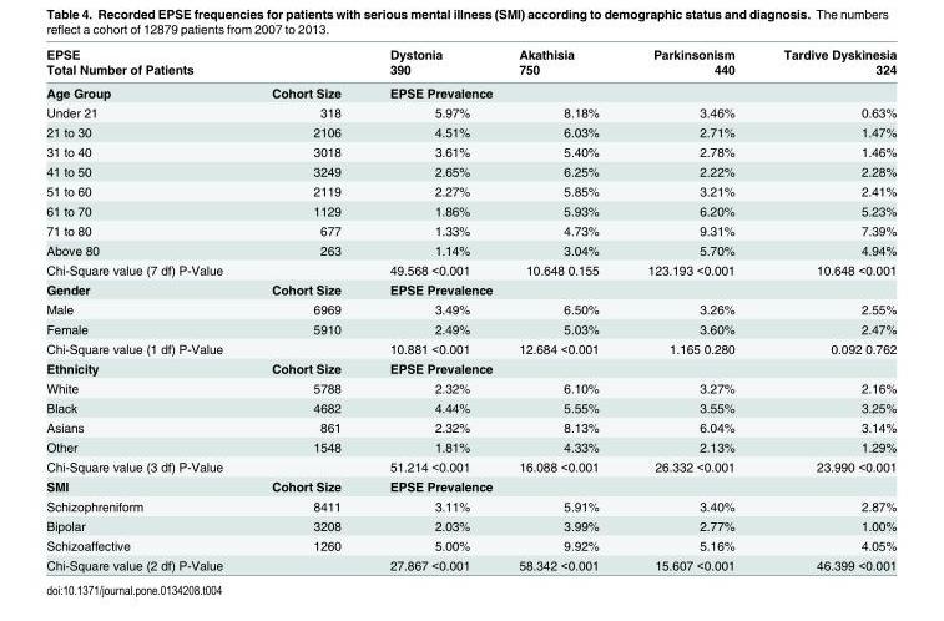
<table><thead><tr><td rowspan="2" colspan="2">EPSE Total Number of Patients</td><td rowspan="2">Dystonia 390</td><td rowspan="2">Akathisia 750</td><td rowspan="2">Parkinsonism 440</td><td rowspan="2">Tardive Dyskinesia 324</td></tr><tr></tr><tr><td>Age Group</td><td>Cohort Size</td><td colspan="4">EPSE Prevalence</td></tr></thead><tbody><tr><td>Under 21</td><td>318</td><td>5.97%</td><td>8.18%</td><td>3.46%</td><td>0.63%</td></tr><tr><td>21 to 30</td><td>2106</td><td>4.51%</td><td>6.03%</td><td>2.71%</td><td>1.47%</td></tr><tr><td>31 to 40</td><td>3018</td><td>3.61%</td><td>5.40%</td><td>2.78%</td><td>1.46%</td></tr><tr><td>41 to 50</td><td>3249</td><td>2.65%</td><td>6.25%</td><td>2.22%</td><td>2.28%</td></tr><tr><td>51 to 60</td><td>2119</td><td>2.27%</td><td>5.85%</td><td>3.21%</td><td>2.41%</td></tr><tr><td>61 to 70</td><td>1129</td><td>1.86%</td><td>5.93%</td><td>6.20%</td><td>5.23%</td></tr><tr><td>71 to 80</td><td>677</td><td>1.33%</td><td>4.73%</td><td>9.31%</td><td>7.39%</td></tr><tr><td>Above 80</td><td>263</td><td>1.14%</td><td>3.04%</td><td>5.70%</td><td>4.94%</td></tr><tr><td>Chi-Square value (7 df) P-Value</td><td></td><td>49.568 &lt;0.001</td><td>10.648 0.155</td><td>123.193 &lt;0.001</td><td>10.648 &lt;0.001</td></tr><tr><td>Gender</td><td>Cohort Size</td><td colspan="4">EPSE Prevalence</td></tr><tr><td>Male</td><td>6969</td><td>3.49%</td><td>6.50%</td><td>3.26%</td><td>2.55%</td></tr><tr><td>Female</td><td>5910</td><td>2.49%</td><td>5.03%</td><td>3.60%</td><td>2.47%</td></tr><tr><td>Chi-Square value (1 df) P-Value</td><td></td><td>10.881 &lt;0.001</td><td>12.684 &lt;0.001</td><td>1.165 0.280</td><td>0.092 0.762</td></tr><tr><td>Ethnicity</td><td>Cohort Size</td><td colspan="4">EPSE Prevalence</td></tr><tr><td>White</td><td>5788</td><td>2.32%</td><td>6.10%</td><td>3.27%</td><td>2.16%</td></tr><tr><td>Black</td><td>4682</td><td>4.44%</td><td>5.55%</td><td>3.55%</td><td>3.25%</td></tr><tr><td>Asians</td><td>861</td><td>2.32%</td><td>8.13%</td><td>6.04%</td><td>3.14%</td></tr><tr><td>Other</td><td>1548</td><td>1.81%</td><td>4.33%</td><td>2.13%</td><td>1.29%</td></tr><tr><td>Chi-Square value (3 df) P-Value</td><td></td><td>51.214 &lt;0.001</td><td>16.088 &lt;0.001</td><td>26.332 &lt;0.001</td><td>23.990 &lt;0.001</td></tr><tr><td>SMI</td><td>Cohort Size</td><td colspan="4">EPSE Prevalence</td></tr><tr><td>Schizophreniform</td><td>8411</td><td>3.11%</td><td>5.91%</td><td>3.40%</td><td>2.87%</td></tr><tr><td>Bipolar</td><td>3208</td><td>2.03%</td><td>3.99%</td><td>2.77%</td><td>1.00%</td></tr><tr><td>Schizoaffective</td><td>1260</td><td>5.00%</td><td>9.92%</td><td>5.16%</td><td>4.05%</td></tr><tr><td>Chi-Square value (2 df) P-Value</td><td></td><td>27.867 &lt;0.001</td><td>58.342 &lt;0.001</td><td>15.607 &lt;0.001</td><td>46.399 &lt;0.001</td></tr></tbody></table>